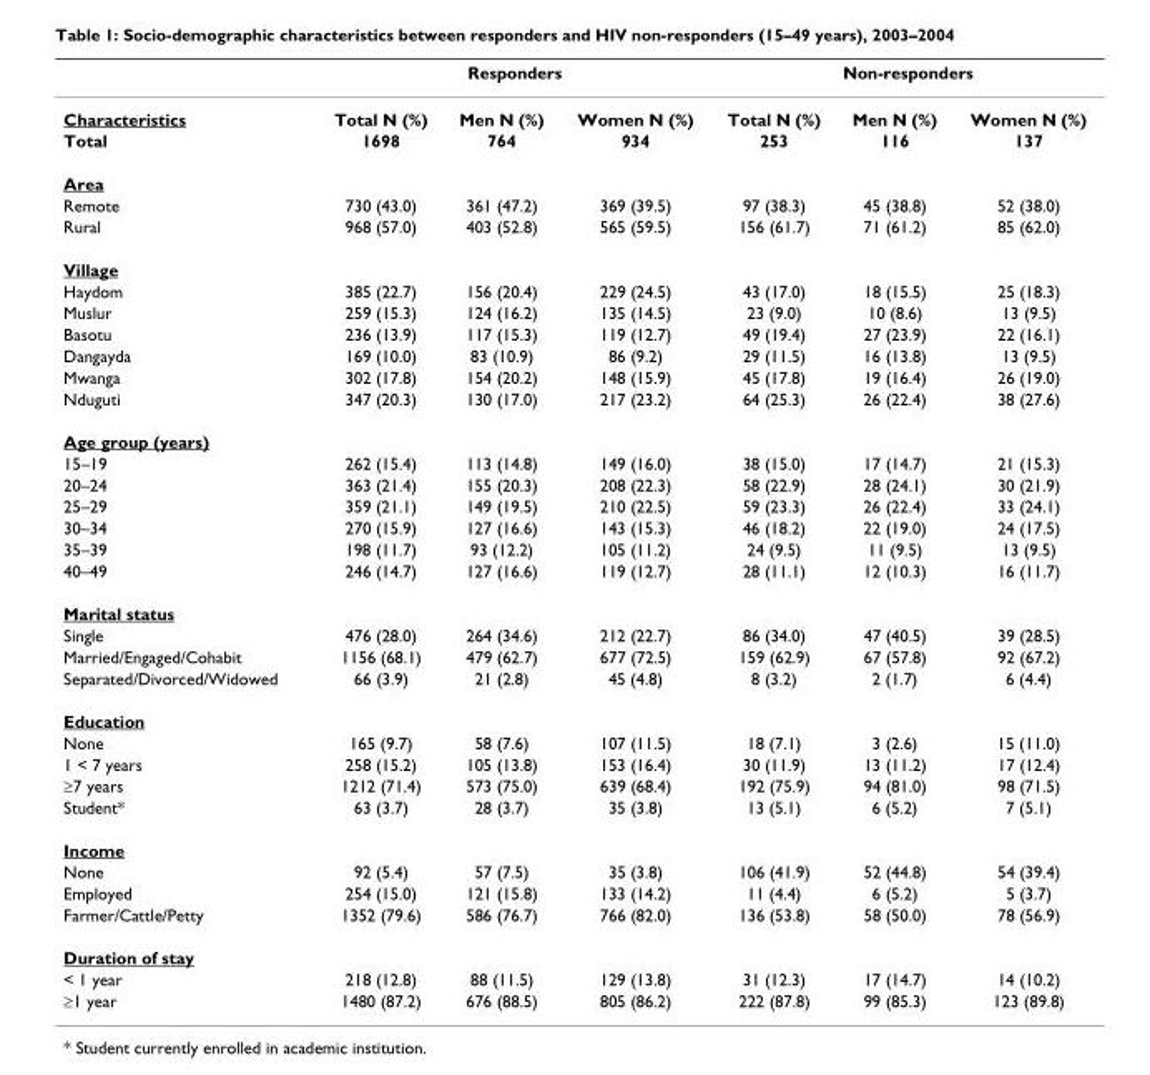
<table><thead><tr><td rowspan="2">Characteristics</td><td colspan="3">Responders</td><td colspan="3">Non-responders</td></tr><tr><td>Total N (%)</td><td>Men N (%)</td><td>Women N (%)</td><td>Total N (%)</td><td>Men N (%)</td><td>Women N (%)</td></tr></thead><tbody><tr><td>Total</td><td>1698</td><td>764</td><td>934</td><td>253</td><td>116</td><td>137</td></tr><tr><td colspan="7">Area</td></tr><tr><td>Remote</td><td>730 (43.0)</td><td>361 (47.2)</td><td>369 (39.5)</td><td>97 (38.3)</td><td>45 (38.8)</td><td>52 (38.0)</td></tr><tr><td>Rural</td><td>968 (57.0)</td><td>403 (52.8)</td><td>565 (59.5)</td><td>156 (61.7)</td><td>71 (61.2)</td><td>85 (62.0)</td></tr><tr><td colspan="7">Village</td></tr><tr><td>Haydom</td><td>385 (22.7)</td><td>156 (20.4)</td><td>229 (24.5)</td><td>43 (17.0)</td><td>18 (15.5)</td><td>25 (18.3)</td></tr><tr><td>Muslur</td><td>259 (15.3)</td><td>124 (16.2)</td><td>135 (14.5)</td><td>23 (9.0)</td><td>10 (8.6)</td><td>13 (9.5)</td></tr><tr><td>Basotu</td><td>236 (13.9)</td><td>117 (15.3)</td><td>119 (12.7)</td><td>49 (19.4)</td><td>27 (23.9)</td><td>22 (16.1)</td></tr><tr><td>Dangayda</td><td>169 (10.0)</td><td>83 (10.9)</td><td>86 (9.2)</td><td>29 (11.5)</td><td>16 (13.8)</td><td>13 (9.5)</td></tr><tr><td>Mwanga</td><td>302 (17.8)</td><td>154 (20.2)</td><td>148 (15.9)</td><td>45 (17.8)</td><td>19 (16.4)</td><td>26 (19.0)</td></tr><tr><td>Nduguti</td><td>347 (20.3)</td><td>130 (17.0)</td><td>217 (23.2)</td><td>64 (25.3)</td><td>26 (22.4)</td><td>38 (27.6)</td></tr><tr><td colspan="7">Age group (years)</td></tr><tr><td>15–19</td><td>262 (15.4)</td><td>113 (14.8)</td><td>149 (16.0)</td><td>38 (15.0)</td><td>17 (14.7)</td><td>21 (15.3)</td></tr><tr><td>20–24</td><td>363 (21.4)</td><td>155 (20.3)</td><td>208 (22.3)</td><td>58 (22.9)</td><td>28 (24.1)</td><td>30 (21.9)</td></tr><tr><td>25–29</td><td>359 (21.1)</td><td>149 (19.5)</td><td>210 (22.5)</td><td>59 (23.3)</td><td>26 (22.4)</td><td>33 (24.1)</td></tr><tr><td>30–34</td><td>270 (15.9)</td><td>127 (16.6)</td><td>143 (15.3)</td><td>46 (18.2)</td><td>22 (19.0)</td><td>24 (17.5)</td></tr><tr><td>35–39</td><td>198 (11.7)</td><td>93 (12.2)</td><td>105 (11.2)</td><td>24 (9.5)</td><td>11 (9.5)</td><td>13 (9.5)</td></tr><tr><td>40–49</td><td>246 (14.7)</td><td>127 (16.6)</td><td>119 (12.7)</td><td>28 (11.1)</td><td>12 (10.3)</td><td>16 (11.7)</td></tr><tr><td colspan="7">Marital status</td></tr><tr><td>Single</td><td>476 (28.0)</td><td>264 (34.6)</td><td>212 (22.7)</td><td>86 (34.0)</td><td>47 (40.5)</td><td>39 (28.5)</td></tr><tr><td>Married/Engaged/Cohabit</td><td>1156 (68.1)</td><td>479 (62.7)</td><td>677 (72.5)</td><td>159 (62.9)</td><td>67 (57.8)</td><td>92 (67.2)</td></tr><tr><td>Separated/Divorced/Widowed</td><td>66 (3.9)</td><td>21 (2.8)</td><td>45 (4.8)</td><td>8 (3.2)</td><td>2 (1.7)</td><td>6 (4.4)</td></tr><tr><td colspan="7">Education</td></tr><tr><td>None</td><td>165 (9.7)</td><td>58 (7.6)</td><td>107 (11.5)</td><td>18 (7.1)</td><td>3 (2.6)</td><td>15 (11.0)</td></tr><tr><td>1 &lt; 7 years</td><td>258 (15.2)</td><td>105 (13.8)</td><td>153 (16.4)</td><td>30 (11.9)</td><td>13 (11.2)</td><td>17 (12.4)</td></tr><tr><td>≥7 years</td><td>1212 (71.4)</td><td>573 (75.0)</td><td>639 (68.4)</td><td>192 (75.9)</td><td>94 (81.0)</td><td>98 (71.5)</td></tr><tr><td>Student*</td><td>63 (3.7)</td><td>28 (3.7)</td><td>35 (3.8)</td><td>13 (5.1)</td><td>6 (5.2)</td><td>7 (5.1)</td></tr><tr><td colspan="7">Income</td></tr><tr><td>None</td><td>92 (5.4)</td><td>57 (7.5)</td><td>35 (3.8)</td><td>106 (41.9)</td><td>52 (44.8)</td><td>54 (39.4)</td></tr><tr><td>Employed</td><td>254 (15.0)</td><td>121 (15.8)</td><td>133 (14.2)</td><td>11 (4.4)</td><td>6 (5.2)</td><td>5 (3.7)</td></tr><tr><td>Farmer/Cattle/Petty</td><td>1352 (79.6)</td><td>586 (76.7)</td><td>766 (82.0)</td><td>136 (53.8)</td><td>58 (50.0)</td><td>78 (56.9)</td></tr><tr><td colspan="7">Duration of stay</td></tr><tr><td>&lt; 1 year</td><td>218 (12.8)</td><td>88 (11.5)</td><td>129 (13.8)</td><td>31 (12.3)</td><td>17 (14.7)</td><td>14 (10.2)</td></tr><tr><td>≥1 year</td><td>1480 (87.2)</td><td>676 (88.5)</td><td>805 (86.2)</td><td>222 (87.8)</td><td>99 (85.3)</td><td>123 (89.8)</td></tr></tbody></table>